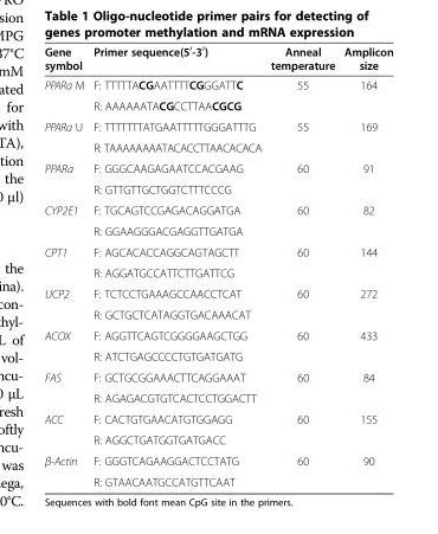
<table><thead><tr><td>Gene symbol</td><td>Primer sequence(5<sup>′</sup>-3<sup>′</sup>)</td><td>Anneal temperature</td><td>Amplicon size</td></tr></thead><tbody><tr><td rowspan="2">PPARa M</td><td>F: TTTTTACGAATTTTCGGGATTC</td><td>55</td><td>164</td></tr><tr><td>R: AAAAAATACGCCTTAACGCG</td><td></td><td></td></tr><tr><td rowspan="2">PPARa U</td><td>F: TTTTTTTATGAATTTTTGGGATTTG</td><td>55</td><td>169</td></tr><tr><td>R: TAAAAAAAATACACCTTAACACACA</td><td></td><td></td></tr><tr><td rowspan="2">PPARa</td><td>F: GGGCAAGAGAATCCACGAAG</td><td>60</td><td>91</td></tr><tr><td>R: GTTGTTGCTGGTCTTTCCCG</td><td></td><td></td></tr><tr><td rowspan="2">CYP2E1</td><td>F: TGCAGTCCGAGACAGGATGA</td><td>60</td><td>82</td></tr><tr><td>R: GGAAGGGACGAGGTTGATGA</td><td></td><td></td></tr><tr><td rowspan="2">CPT1</td><td>F: AGCACACCAGGCAGTAGCTT</td><td>60</td><td>144</td></tr><tr><td>R: AGGATGCCATTCTTGATTCG</td><td></td><td></td></tr><tr><td rowspan="2">UCP2</td><td>F: TCTCCTGAAAGCCAACCTCAT</td><td>60</td><td>272</td></tr><tr><td>R: GCTGCTCATAGGTGACAAACAT</td><td></td><td></td></tr><tr><td rowspan="2">ACOX</td><td>F: AGGTTCAGTCGGGGAAGCTGG</td><td>60</td><td>433</td></tr><tr><td>R: ATCTGAGCCCCTGTGATGATG</td><td></td><td></td></tr><tr><td rowspan="2">FAS</td><td>F: GCTGCGGAAACTTCAGGAAAT</td><td>60</td><td>84</td></tr><tr><td>R: AGAGACGTGTCACTCCTGGACTT</td><td></td><td></td></tr><tr><td rowspan="2">ACC</td><td>F: CACTGTGAACATGTGGAGG</td><td>60</td><td>155</td></tr><tr><td>R: AGGCTGATGGTGATGACC</td><td></td><td></td></tr><tr><td rowspan="2">β-Actin</td><td>F: GGGTCAGAAGGACTCCTATG</td><td>60</td><td>90</td></tr><tr><td>R: GTAACAATGCCATGTTCAAT</td><td></td><td></td></tr></tbody></table>